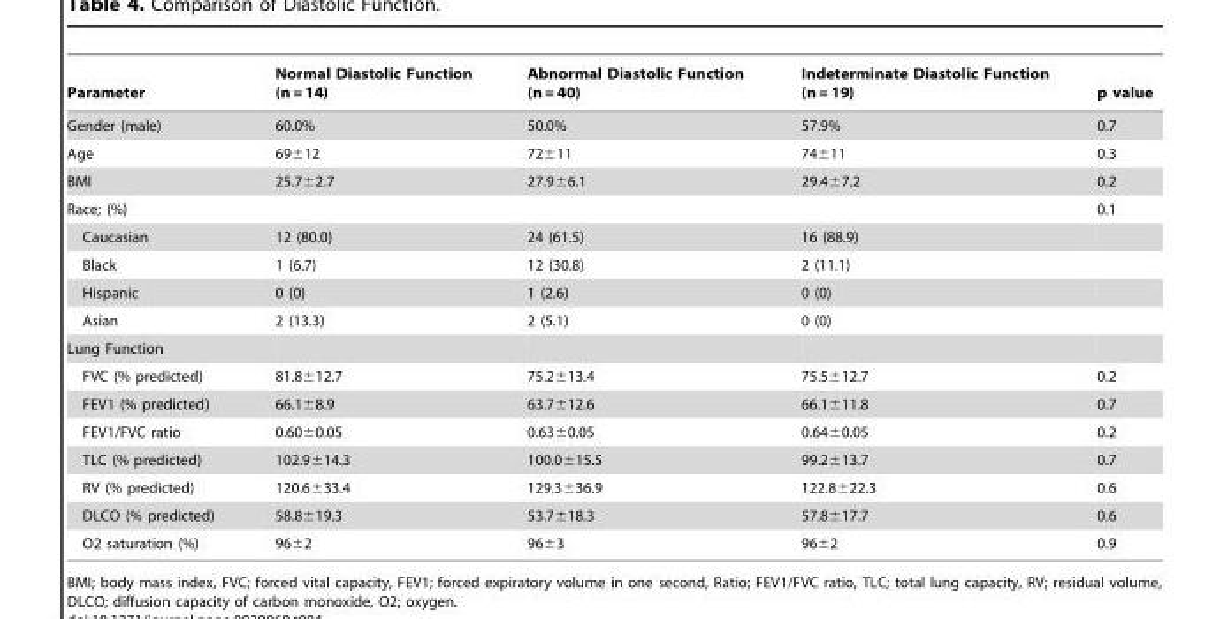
<table><thead><tr><td>Parameter</td><td>Normal Diastolic Function (n = 14)</td><td>Abnormal Diastolic Function (n = 40)</td><td>Indeterminate Diastolic Function (n = 19)</td><td>p value</td></tr></thead><tbody><tr><td>Gender (male)</td><td>60.0%</td><td>50.0%</td><td>57.9%</td><td>0.7</td></tr><tr><td>Age</td><td>69±12</td><td>72±11</td><td>74±11</td><td>0.3</td></tr><tr><td>BMI</td><td>25.7±2.7</td><td>27.9±6.1</td><td>29.4±7.2</td><td>0.2</td></tr><tr><td>Race; (%)</td><td></td><td></td><td></td><td>0.1</td></tr><tr><td>Caucasian</td><td>12 (80.0)</td><td>24 (61.5)</td><td>16 (88.9)</td><td></td></tr><tr><td>Black</td><td>1 (6.7)</td><td>12 (30.8)</td><td>2 (11.1)</td><td></td></tr><tr><td>Hispanic</td><td>0 (0)</td><td>1 (2.6)</td><td>0 (0)</td><td></td></tr><tr><td>Asian</td><td>2 (13.3)</td><td>2 (5.1)</td><td>0 (0)</td><td></td></tr><tr><td colspan="5">Lung Function</td></tr><tr><td>FVC (% predicted)</td><td>81.8±12.7</td><td>75.2±13.4</td><td>75.5±12.7</td><td>0.2</td></tr><tr><td>FEV1 (% predicted)</td><td>66.1±8.9</td><td>63.7±12.6</td><td>66.1±11.8</td><td>0.7</td></tr><tr><td>FEV1/FVC ratio</td><td>0.60±0.05</td><td>0.63±0.05</td><td>0.64±0.05</td><td>0.2</td></tr><tr><td>TLC (% predicted)</td><td>102.9±14.3</td><td>100.0±15.5</td><td>99.2±13.7</td><td>0.7</td></tr><tr><td>RV (% predicted)</td><td>120.6±33.4</td><td>129.3±36.9</td><td>122.8±22.3</td><td>0.6</td></tr><tr><td>DLCO (% predicted)</td><td>58.8±19.3</td><td>53.7±18.3</td><td>57.8±17.7</td><td>0.6</td></tr><tr><td>O2 saturation (%)</td><td>96±2</td><td>96±3</td><td>96±2</td><td>0.9</td></tr></tbody></table>